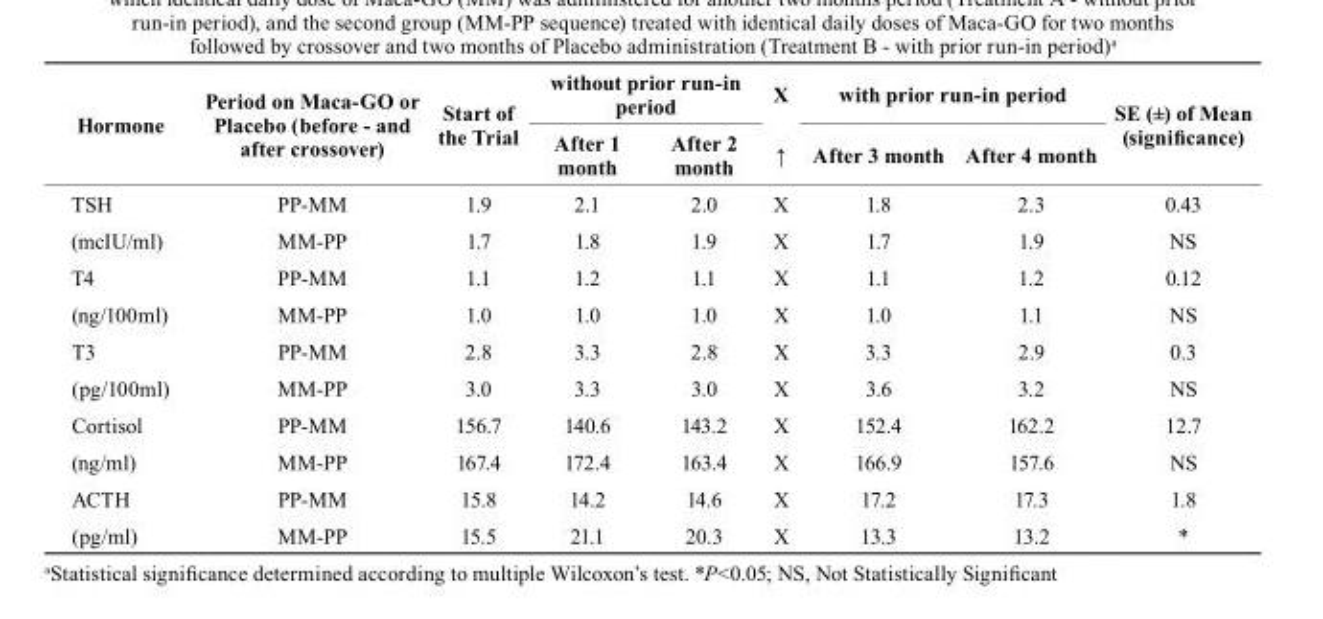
<table><thead><tr><td rowspan="2">Hormone</td><td rowspan="2">Period on Maca-GO or Placebo (before - and after crossover)</td><td rowspan="2">start of the trial</td><td colspan="2">without prior run-in period</td><td rowspan="2">X ↑</td><td colspan="2">with prior run-in period</td><td rowspan="2">sE (±) of Mean (significance)</td></tr><tr><td>After 1 month</td><td>After 2 month</td><td>After 3 month</td><td>After 4 month</td></tr></thead><tbody><tr><td>TSH</td><td>PP-MM</td><td>1.9</td><td>2.1</td><td>2.0</td><td>X</td><td>1.8</td><td>2.3</td><td>0.43</td></tr><tr><td>(mcIU/ml)</td><td>MM-PP</td><td>1.7</td><td>1.8</td><td>1.9</td><td>X</td><td>1.7</td><td>1.9</td><td>NS</td></tr><tr><td>T4</td><td>PP-MM</td><td>1.1</td><td>1.2</td><td>1.1</td><td>X</td><td>1.1</td><td>1.2</td><td>0.12</td></tr><tr><td>(ng/100ml)</td><td>MM-PP</td><td>1.0</td><td>1.0</td><td>1.0</td><td>X</td><td>1.0</td><td>1.1</td><td>NS</td></tr><tr><td>T3</td><td>PP-MM</td><td>2.8</td><td>3.3</td><td>2.8</td><td>X</td><td>3.3</td><td>2.9</td><td>0.3</td></tr><tr><td>(pg/100ml)</td><td>MM-PP</td><td>3.0</td><td>3.3</td><td>3.0</td><td>X</td><td>3.6</td><td>3.2</td><td>NS</td></tr><tr><td>Cortisol</td><td>PP-MM</td><td>156.7</td><td>140.6</td><td>143.2</td><td>X</td><td>152.4</td><td>162.2</td><td>12.7</td></tr><tr><td>(ng/ml)</td><td>MM-PP</td><td>167.4</td><td>172.4</td><td>163.4</td><td>X</td><td>166.9</td><td>157.6</td><td>NS</td></tr><tr><td>ACTH</td><td>PP-MM</td><td>15.8</td><td>14.2</td><td>14.6</td><td>X</td><td>17.2</td><td>17.3</td><td>1.8</td></tr><tr><td>(pg/ml)</td><td>MM-PP</td><td>15.5</td><td>21.1</td><td>20.3</td><td>X</td><td>13.3</td><td>13.2</td><td>*</td></tr></tbody></table>